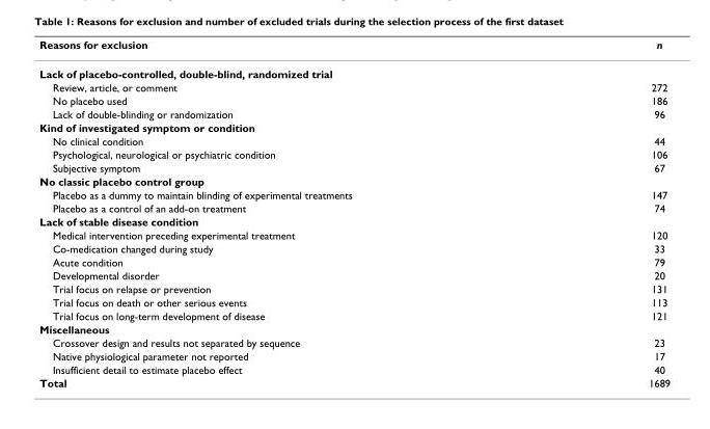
<table><thead><tr><td>Reasons for exclusion</td><td>n</td></tr></thead><tbody><tr><td colspan="2">Lack of placebo-controlled, double-blind, randomized trial</td></tr><tr><td>Review, article, or comment</td><td>272</td></tr><tr><td>No placebo used</td><td>186</td></tr><tr><td>Lack of double-blinding or randomization</td><td>96</td></tr><tr><td colspan="2">Kind of investigated symptom or condition</td></tr><tr><td>No clinical condition</td><td>44</td></tr><tr><td>Psychological, neurological or psychiatric condition</td><td>106</td></tr><tr><td>Subjective symptom</td><td>67</td></tr><tr><td colspan="2">No classic placebo control group</td></tr><tr><td>Placebo as a dummy to maintain blinding of experimental treatments</td><td>147</td></tr><tr><td>Placebo as a control of an add-on treatment</td><td>74</td></tr><tr><td colspan="2">Lack of stable disease condition</td></tr><tr><td>Medical intervention preceding experimental treatment</td><td>120</td></tr><tr><td>Co-medication changed during study</td><td>33</td></tr><tr><td>Acute condition</td><td>79</td></tr><tr><td>Developmental disorder</td><td>20</td></tr><tr><td>Trial focus on relapse or prevention</td><td>131</td></tr><tr><td>Trial focus on death or other serious events</td><td>113</td></tr><tr><td>Trial focus on long-term development of disease</td><td>121</td></tr><tr><td colspan="2">Miscellaneous</td></tr><tr><td>Crossover design and results not separated by sequence</td><td>23</td></tr><tr><td>Native physiological parameter not reported</td><td>17</td></tr><tr><td>Insufficient detail to estimate placebo effect</td><td>40</td></tr><tr><td>Total</td><td>1689</td></tr></tbody></table>